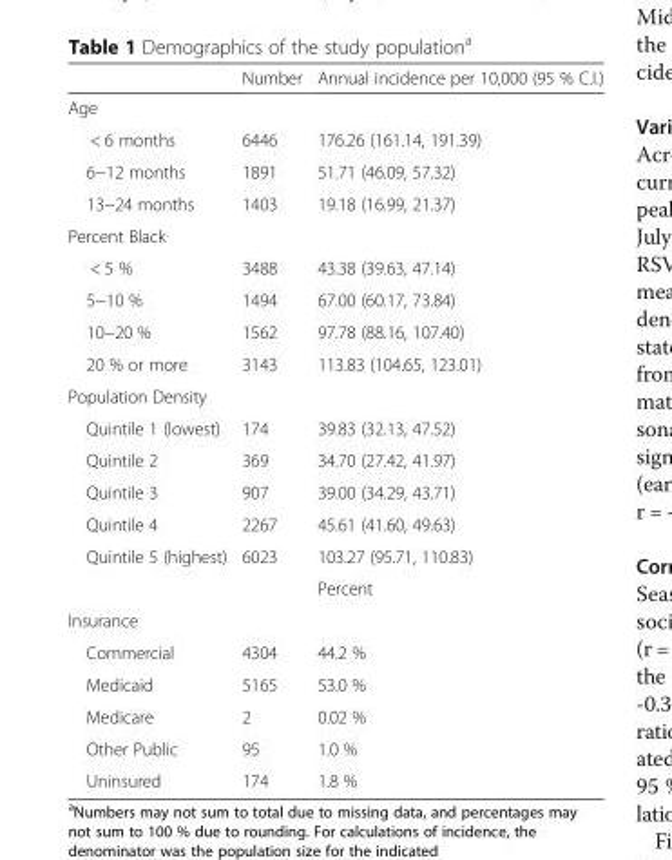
<table><thead><tr><td></td><td>Number</td><td>Annual incidence per 10,000 (95 % C.I.)</td></tr></thead><tbody><tr><td colspan="3">Age</td></tr><tr><td>&lt; 6 months</td><td>6446</td><td>176.26 (161.14, 191.39)</td></tr><tr><td>6−12 months</td><td>1891</td><td>51.71 (46.09, 57.32)</td></tr><tr><td>13−24 months</td><td>1403</td><td>19.18 (16.99, 21.37)</td></tr><tr><td colspan="3">Percent Black</td></tr><tr><td>&lt; 5 %</td><td>3488</td><td>43.38 (39.63, 47.14)</td></tr><tr><td>5−10 %</td><td>1494</td><td>67.00 (60.17, 73.84)</td></tr><tr><td>10−20 %</td><td>1562</td><td>97.78 (88.16, 107.40)</td></tr><tr><td>20 % or more</td><td>3143</td><td>113.83 (104.65, 123.01)</td></tr><tr><td colspan="3">Population Density</td></tr><tr><td>Quintile 1 (lowest)</td><td>174</td><td>39.83 (32.13, 47.52)</td></tr><tr><td>Quintile 2</td><td>369</td><td>34.70 (27.42, 41.97)</td></tr><tr><td>Quintile 3</td><td>907</td><td>39.00 (34.29, 43.71)</td></tr><tr><td>Quintile 4</td><td>2267</td><td>45.61 (41.60, 49.63)</td></tr><tr><td rowspan="2">Quintile 5 (highest)</td><td>6023</td><td>103.27 (95.71, 110.83)</td></tr><tr><td></td><td>Percent</td></tr><tr><td colspan="3">Insurance</td></tr><tr><td>Commercial</td><td>4304</td><td>44.2 %</td></tr><tr><td>Medicaid</td><td>5165</td><td>53.0 %</td></tr><tr><td>Medicare</td><td>2</td><td>0.02 %</td></tr><tr><td>Other Public</td><td>95</td><td>1.0 %</td></tr><tr><td>Uninsured</td><td>174</td><td>1.8 %</td></tr></tbody></table>